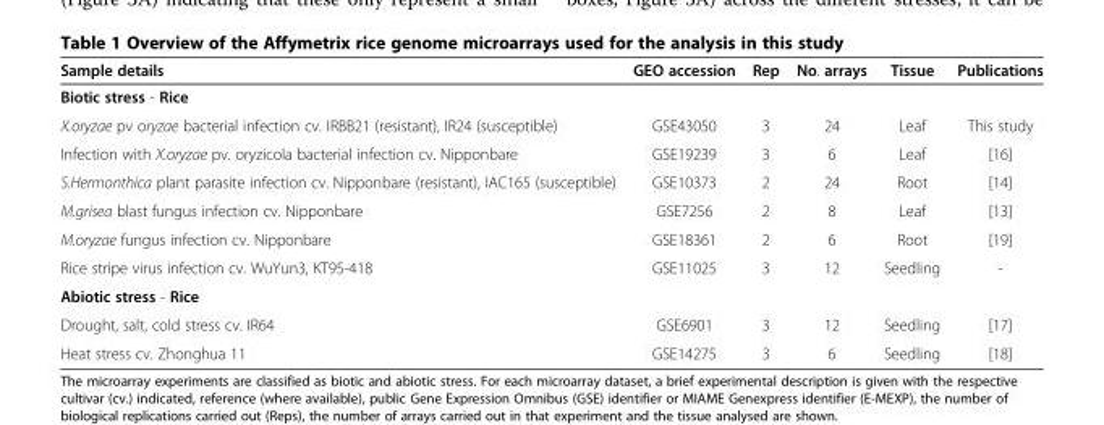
<table><thead><tr><td>Sample details</td><td>GEO accession</td><td>Rep</td><td>No. arrays</td><td>Tissue</td><td>Publications</td></tr></thead><tbody><tr><td colspan="6">Biotic stress - Rice</td></tr><tr><td>X.oryzae pv oryzae bacterial infection cv. IRBB21 (resistant), IR24 (susceptible)</td><td>GSE43050</td><td>3</td><td>24</td><td>Leaf</td><td>This study</td></tr><tr><td>Infection with X.oryzae pv. oryzicola bacterial infection cv. Nipponbare</td><td>GSE19239</td><td>3</td><td>6</td><td>Leaf</td><td>[16]</td></tr><tr><td>S.Hermonthica plant parasite infection cv. Nipponbare (resistant), IAC165 (susceptible)</td><td>GSE10373</td><td>2</td><td>24</td><td>Root</td><td>[14]</td></tr><tr><td>M.grisea blast fungus infection cv. Nipponbare</td><td>GSE7256</td><td>2</td><td>8</td><td>Leaf</td><td>[13]</td></tr><tr><td>M.oryzae fungus infection cv. Nipponbare</td><td>GSE18361</td><td>2</td><td>6</td><td>Root</td><td>[19]</td></tr><tr><td>Rice stripe virus infection cv. WuYun3, KT95-418</td><td>GSE11025</td><td>3</td><td>12</td><td>Seedling</td><td>-</td></tr><tr><td colspan="6">Abiotic stress - Rice</td></tr><tr><td>Drought, salt, cold stress cv. IR64</td><td>GSE6901</td><td>3</td><td>12</td><td>Seedling</td><td>[17]</td></tr><tr><td>Heat stress cv. Zhonghua 11</td><td>GSE14275</td><td>3</td><td>6</td><td>Seedling</td><td>[18]</td></tr></tbody></table>